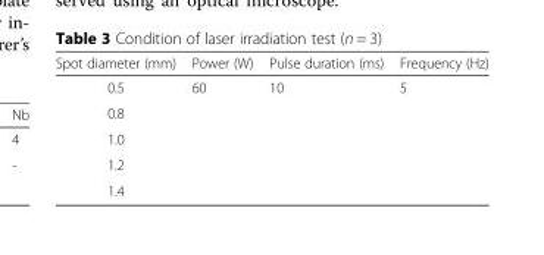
<table><thead><tr><td>Spot diameter (mm)</td><td>Power (W)</td><td>Pulse duration (ms)</td><td>Frequency (Hz)</td></tr></thead><tbody><tr><td>0.5</td><td rowspan="5">60</td><td rowspan="5">10</td><td rowspan="5">5</td></tr><tr><td>0.8</td></tr><tr><td>1.0</td></tr><tr><td>1.2</td></tr><tr><td>1.4</td></tr></tbody></table>